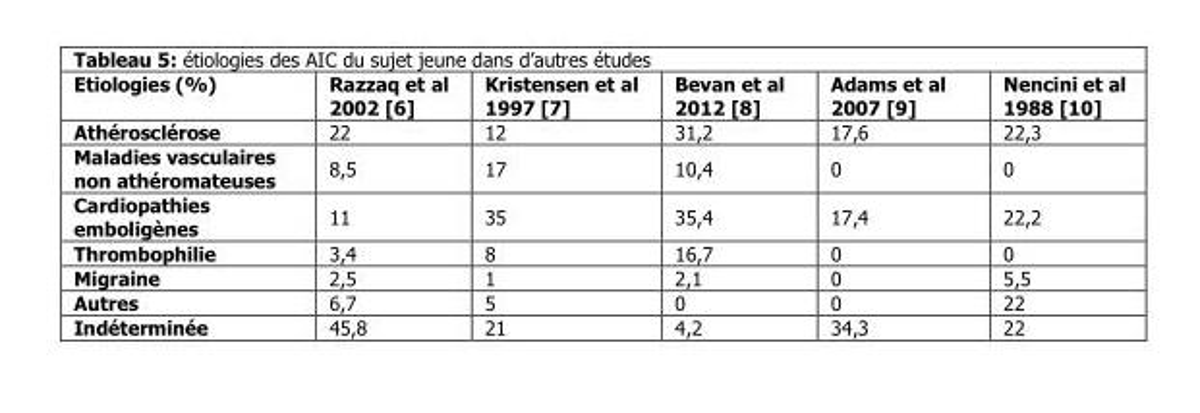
<table><thead><tr><td>Etiologies (%)</td><td>Razzaq et al 2002 [6]</td><td>Kristensen et al 1997 [7]</td><td>Bevan et al 2012 [8]</td><td>Adams et al 2007 [9]</td><td>Nencini et al 1988 [10]</td></tr></thead><tbody><tr><td>Athérosclérose</td><td>22</td><td>12</td><td>31,2</td><td>17,6</td><td>22,3</td></tr><tr><td>Maladies vasculaires non athéromateuses</td><td>8,5</td><td>17</td><td>10,4</td><td>0</td><td>0</td></tr><tr><td>Cardiopathies emboligènes</td><td>11</td><td>35</td><td>35,4</td><td>17,4</td><td>22,2</td></tr><tr><td>Thrombophilie</td><td>3,4</td><td>8</td><td>16,7</td><td>0</td><td>0</td></tr><tr><td>Migraine</td><td>2,5</td><td>1</td><td>2,1</td><td>0</td><td>5,5</td></tr><tr><td>Autres</td><td>6,7</td><td>5</td><td>0</td><td>0</td><td>22</td></tr><tr><td>Indéterminée</td><td>45,8</td><td>21</td><td>4,2</td><td>34,3</td><td>22</td></tr></tbody></table>